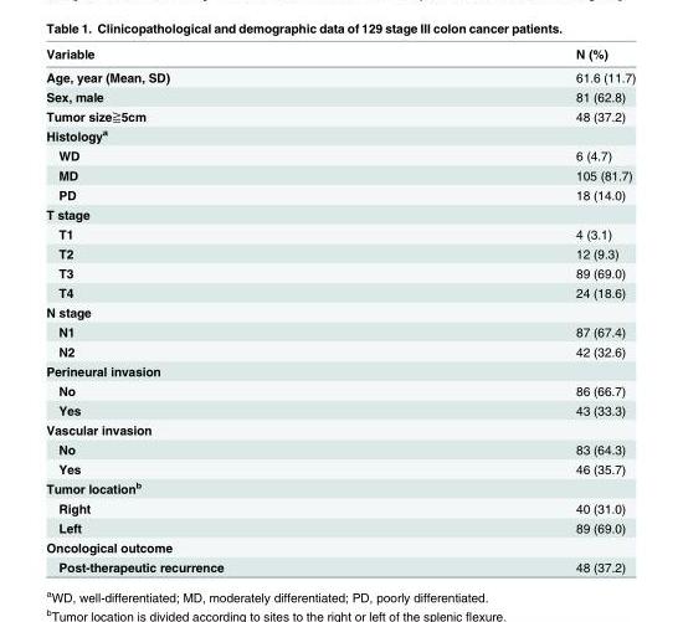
<table><thead><tr><td>Variable</td><td>N (%)</td></tr></thead><tbody><tr><td>Age, year (Mean, SD)</td><td>61.6 (11.7)</td></tr><tr><td>Sex, male</td><td>81 (62.8)</td></tr><tr><td>Tumor size≧5cm</td><td>48 (37.2)</td></tr><tr><td colspan="2">Histology<sup>a</sup></td></tr><tr><td>WD</td><td>6 (4.7)</td></tr><tr><td>MD</td><td>105 (81.7)</td></tr><tr><td>PD</td><td>18 (14.0)</td></tr><tr><td colspan="2">T stage</td></tr><tr><td>T1</td><td>4 (3.1)</td></tr><tr><td>T2</td><td>12 (9.3)</td></tr><tr><td>T3</td><td>89 (69.0)</td></tr><tr><td>T4</td><td>24 (18.6)</td></tr><tr><td colspan="2">N stage</td></tr><tr><td>N1</td><td>87 (67.4)</td></tr><tr><td>N2</td><td>42 (32.6)</td></tr><tr><td colspan="2">Perineural invasion</td></tr><tr><td>No</td><td>86 (66.7)</td></tr><tr><td>Yes</td><td>43 (33.3)</td></tr><tr><td colspan="2">Vascular invasion</td></tr><tr><td>No</td><td>83 (64.3)</td></tr><tr><td>Yes</td><td>46 (35.7)</td></tr><tr><td colspan="2">Tumor location<sup>b</sup></td></tr><tr><td>Right</td><td>40 (31.0)</td></tr><tr><td>Left</td><td>89 (69.0)</td></tr><tr><td colspan="2">Oncological outcome</td></tr><tr><td>Post-therapeutic recurrence</td><td>48 (37.2)</td></tr></tbody></table>